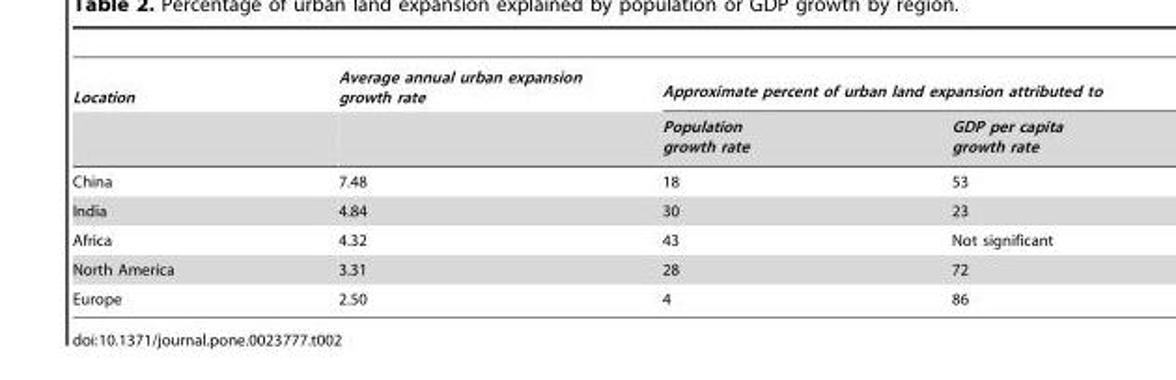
<table><thead><tr><td rowspan="2">Location</td><td rowspan="2">Average annual urban expansion growth rate</td><td colspan="2">Approximate percent of urban land expansion attributed to</td></tr><tr><td>Population growth rate</td><td>GDP per capita growth rate</td></tr></thead><tbody><tr><td>China</td><td>7.48</td><td>18</td><td>53</td></tr><tr><td>India</td><td>4.84</td><td>30</td><td>23</td></tr><tr><td>Africa</td><td>4.32</td><td>43</td><td>Not significant</td></tr><tr><td>North America</td><td>3.31</td><td>28</td><td>72</td></tr><tr><td>Europe</td><td>2.50</td><td>4</td><td>86</td></tr></tbody></table>